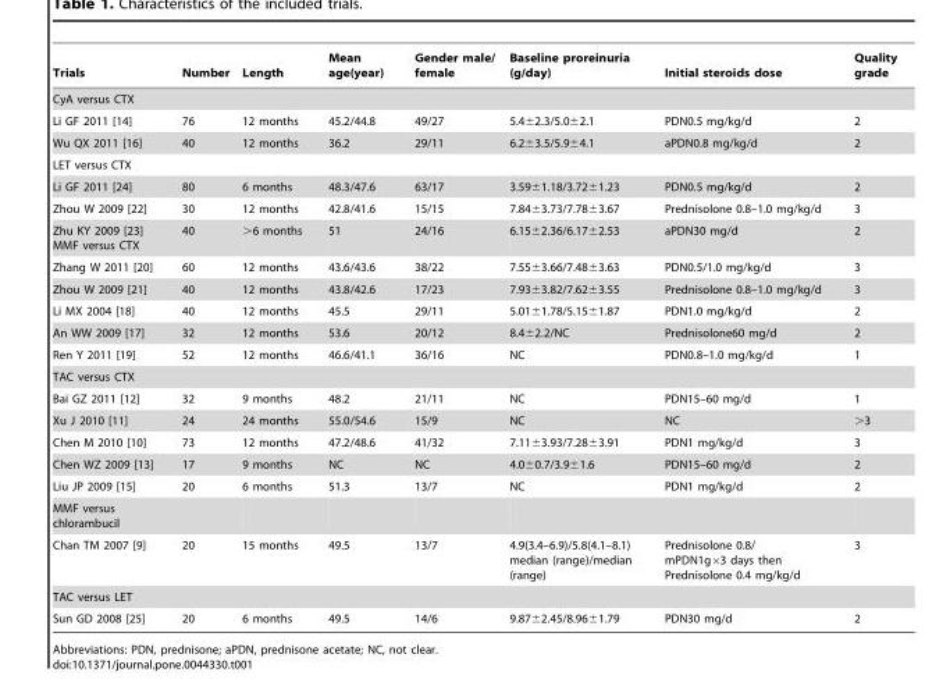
<table><thead><tr><td>Trials</td><td>Number</td><td>Length</td><td>Mean age(year)</td><td>Gender male/ female</td><td>Baseline proreinuria (g/day)</td><td>Initial steroids dose</td><td>Quality grade</td></tr></thead><tbody><tr><td colspan="8">CyA versus CTX</td></tr><tr><td>Li GF 2011 [14]</td><td>76</td><td>12 months</td><td>45.2/44.8</td><td>49/27</td><td>5.4±2.3/5.0±2.1</td><td>PDN0.5 mg/kg/d</td><td>2</td></tr><tr><td>Wu QX 2011 [16]</td><td>40</td><td>12 months</td><td>36.2</td><td>29/11</td><td>6.2±3.5/5.9±4.1</td><td>aPDN0.8 mg/kg/d</td><td>2</td></tr><tr><td colspan="8">LET versus CTX</td></tr><tr><td>Li GF 2011 [24]</td><td>80</td><td>6 months</td><td>48.3/47.6</td><td>63/17</td><td>3.59±1.18/3.72±1.23</td><td>PDN0.5 mg/kg/d</td><td>2</td></tr><tr><td>Zhou W 2009 [22]</td><td>30</td><td>12 months</td><td>42.8/41.6</td><td>15/15</td><td>7.84±3.73/7.78±3.67</td><td>Prednisolone 0.8–1.0 mg/kg/d</td><td>3</td></tr><tr><td>Zhu KY 2009 [23] MMF versus CTX</td><td>40</td><td>&gt;6 months</td><td>51</td><td>24/16</td><td>6.15±2.36/6.17±2.53</td><td>aPDN30 mg/d</td><td>2</td></tr><tr><td>Zhang W 2011 [20]</td><td>60</td><td>12 months</td><td>43.6/43.6</td><td>38/22</td><td>7.55±3.66/7.48±3.63</td><td>PDN0.5/1.0 mg/kg/d</td><td>3</td></tr><tr><td>Zhou W 2009 [21]</td><td>40</td><td>12 months</td><td>43.8/42.6</td><td>17/23</td><td>7.93±3.82/7.62±3.55</td><td>Prednisolone 0.8–1.0 mg/kg/d</td><td>3</td></tr><tr><td>Li MX 2004 [18]</td><td>40</td><td>12 months</td><td>45.5</td><td>29/11</td><td>5.01±1.78/5.15±1.87</td><td>PDN1.0 mg/kg/d</td><td>2</td></tr><tr><td>An WW 2009 [17]</td><td>32</td><td>12 months</td><td>53.6</td><td>20/12</td><td>8.4±2.2/NC</td><td>Prednisolone60 mg/d</td><td>2</td></tr><tr><td>Ren Y 2011 [19]</td><td>52</td><td>12 months</td><td>46.6/41.1</td><td>36/16</td><td>NC</td><td>PDN0.8–1.0 mg/kg/d</td><td>1</td></tr><tr><td colspan="8">TAC versus CTX</td></tr><tr><td>Bai GZ 2011 [12]</td><td>32</td><td>9 months</td><td>48.2</td><td>21/11</td><td>NC</td><td>PDN15–60 mg/d</td><td>1</td></tr><tr><td>Xu J 2010 [11]</td><td>24</td><td>24 months</td><td>55.0/54.6</td><td>15/9</td><td>NC</td><td>NC</td><td>&gt;3</td></tr><tr><td>Chen M 2010 [10]</td><td>73</td><td>12 months</td><td>47.2/48.6</td><td>41/32</td><td>7.11±3.93/7.28±3.91</td><td>PDN1 mg/kg/d</td><td>3</td></tr><tr><td>Chen WZ 2009 [13]</td><td>17</td><td>9 months</td><td>NC</td><td>NC</td><td>4.0±0.7/3.9±1.6</td><td>PDN15–60 mg/d</td><td>2</td></tr><tr><td>Liu JP 2009 [15]</td><td>20</td><td>6 months</td><td>51.3</td><td>13/7</td><td>NC</td><td>PDN1 mg/kg/d</td><td>2</td></tr><tr><td colspan="8">MMF versus chlorambucil</td></tr><tr><td>Chan TM 2007 [9]</td><td>20</td><td>15 months</td><td>49.5</td><td>13/7</td><td>4.9(3.4–6.9)/5.8(4.1–8.1) median (range)/median (range)</td><td>Prednisolone 0.8/ mPDN1g×3 days then Prednisolone 0.4 mg/kg/d</td><td>3</td></tr><tr><td colspan="8">TAC versus LET</td></tr><tr><td>Sun GD 2008 [25]</td><td>20</td><td>6 months</td><td>49.5</td><td>14/6</td><td>9.87±2.45/8.96±1.79</td><td>PDN30 mg/d</td><td>2</td></tr></tbody></table>